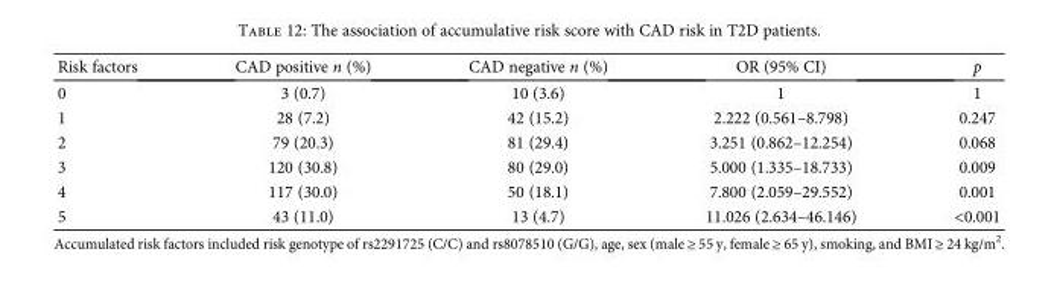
<table><thead><tr><td>Risk factors</td><td>CAD positive n (%)</td><td>CAD negative n (%)</td><td>OR (95% CI)</td><td>p</td></tr></thead><tbody><tr><td>0</td><td>3 (0.7)</td><td>10 (3.6)</td><td>1</td><td>1</td></tr><tr><td>1</td><td>28 (7.2)</td><td>42 (15.2)</td><td>2.222 (0.561–8.798)</td><td>0.247</td></tr><tr><td>2</td><td>79 (20.3)</td><td>81 (29.4)</td><td>3.251 (0.862–12.254)</td><td>0.068</td></tr><tr><td>3</td><td>120 (30.8)</td><td>80 (29.0)</td><td>5.000 (1.335–18.733)</td><td>0.009</td></tr><tr><td>4</td><td>117 (30.0)</td><td>50 (18.1)</td><td>7.800 (2.059–29.552)</td><td>0.001</td></tr><tr><td>5</td><td>43 (11.0)</td><td>13 (4.7)</td><td>11.026 (2.634–46.146)</td><td>&lt;0.001</td></tr></tbody></table>